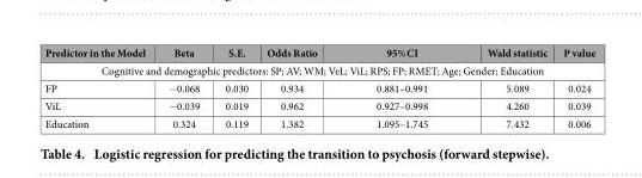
<table><thead><tr><td>Predictor in the Model</td><td>Beta</td><td>S.E.</td><td>Odds Ratio</td><td>95% CI</td><td>Wald statistic</td><td>P value</td></tr></thead><tbody><tr><td colspan="7">Cognitive and demographic predictors: SP; AV; WM; VeL; ViL; RPS; FP; RMET; Age; Gender; Education</td></tr><tr><td>FP</td><td>− 0.068</td><td>0.030</td><td>0.934</td><td>0.881–0.991</td><td>5.089</td><td>0.024</td></tr><tr><td>ViL</td><td>− 0.039</td><td>0.019</td><td>0.962</td><td>0.927–0.998</td><td>4.260</td><td>0.039</td></tr><tr><td>Education</td><td>0.324</td><td>0.119</td><td>1.382</td><td>1.095–1.745</td><td>7.432</td><td>0.006</td></tr></tbody></table>